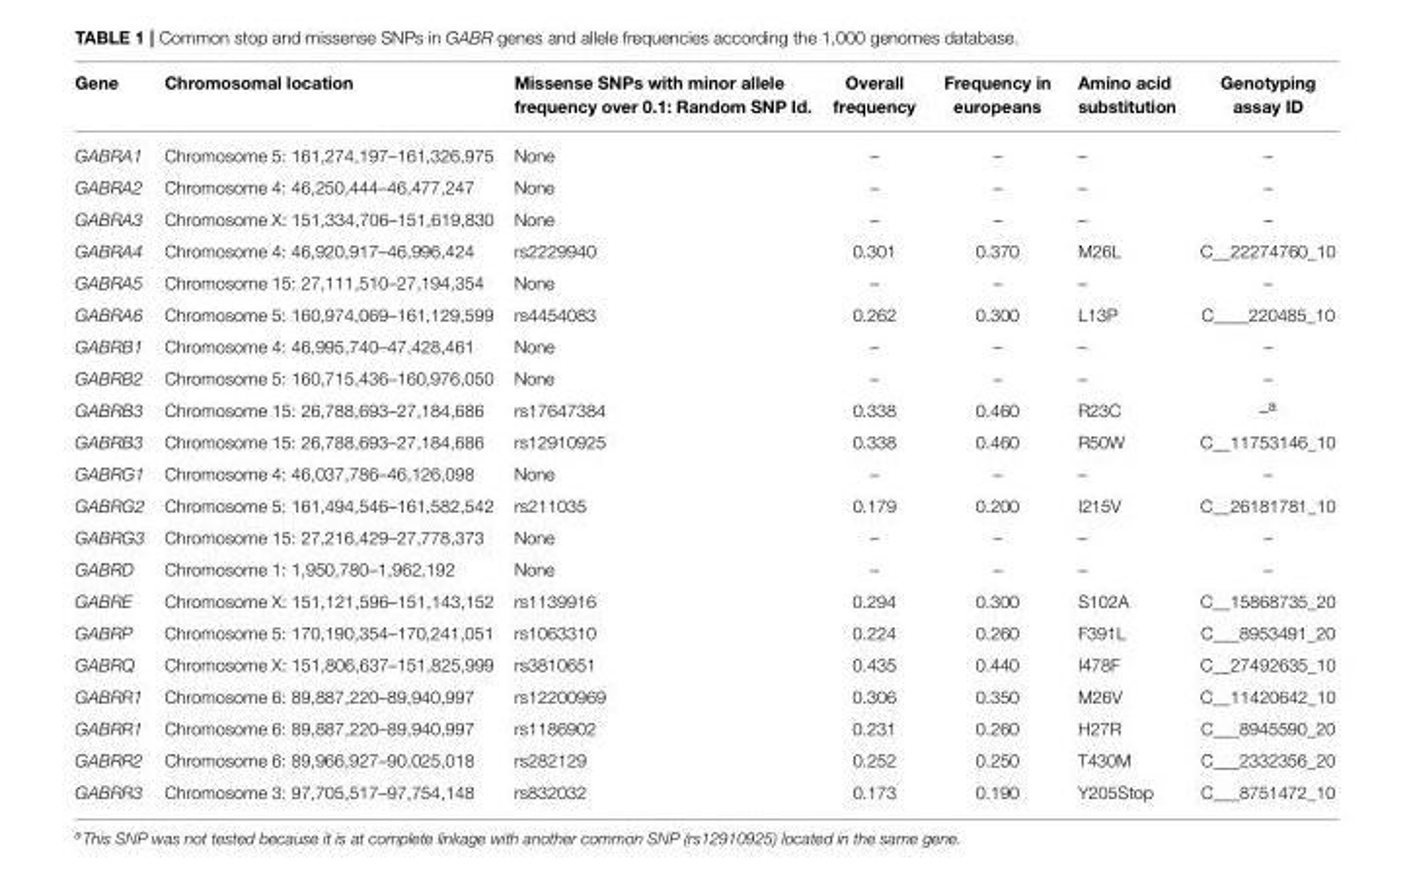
<table><thead><tr><td>Gene</td><td>Chromosomal location</td><td>Missense SNPs with minor allele frequency over 0.1: Random SNP Id.</td><td>Overall frequency</td><td>Frequency in europeans</td><td>Amino acid substitution</td><td>Genotyping assay ID</td></tr></thead><tbody><tr><td>GABRA1</td><td>Chromosome 5: 161,274,197–161,326,975</td><td>None</td><td>–</td><td>–</td><td>–</td><td>–</td></tr><tr><td>GABRA2</td><td>Chromosome 4: 46,250,444–46,477,247</td><td>None</td><td>–</td><td>–</td><td>–</td><td>–</td></tr><tr><td>GABRA3</td><td>Chromosome X: 151,334,706–151,619,830</td><td>None</td><td>–</td><td>–</td><td>–</td><td>–</td></tr><tr><td>GABRA4</td><td>Chromosome 4: 46,920,917–46,996,424</td><td>rs2229940</td><td>0.301</td><td>0.370</td><td>M26L</td><td>C__22274760_10</td></tr><tr><td>GABRA5</td><td>Chromosome 15: 27,111,510–27,194,354</td><td>None</td><td>–</td><td>–</td><td>–</td><td>–</td></tr><tr><td>GABRA6</td><td>Chromosome 5: 160,974,069–161,129,599</td><td>rs4454083</td><td>0.262</td><td>0.300</td><td>L13P</td><td>C____220485_10</td></tr><tr><td>GABRB1</td><td>Chromosome 4: 46,995,740–47,428,461</td><td>None</td><td>–</td><td>–</td><td>–</td><td>–</td></tr><tr><td>GABRB2</td><td>Chromosome 5: 160,715,436–160,976,050</td><td>None</td><td>–</td><td>–</td><td>–</td><td>–</td></tr><tr><td>GABRB3</td><td>Chromosome 15: 26,788,693–27,184,686</td><td>rs17647384</td><td>0.338</td><td>0.460</td><td>R23C</td><td>–<sup>a</sup></td></tr><tr><td>GABRB3</td><td>Chromosome 15: 26,788,693–27,184,686</td><td>rs12910925</td><td>0.338</td><td>0.460</td><td>R50W</td><td>C__11753146_10</td></tr><tr><td>GABRG1</td><td>Chromosome 4: 46,037,786–46,126,098</td><td>None</td><td>–</td><td>–</td><td>–</td><td>–</td></tr><tr><td>GABRG2</td><td>Chromosome 5: 161,494,546–161,582,542</td><td>rs211035</td><td>0.179</td><td>0.200</td><td>I215V</td><td>C__26181781_10</td></tr><tr><td>GABRG3</td><td>Chromosome 15: 27,216,429–27,778,373</td><td>None</td><td>–</td><td>–</td><td>–</td><td>–</td></tr><tr><td>GABRD</td><td>Chromosome 1: 1,950,780–1,962,192</td><td>None</td><td>–</td><td>–</td><td>–</td><td>–</td></tr><tr><td>GABRE</td><td>Chromosome X: 151,121,596–151,143,152</td><td>rs1139916</td><td>0.294</td><td>0.300</td><td>S102A</td><td>C__15868735_20</td></tr><tr><td>GABRP</td><td>Chromosome 5: 170,190,354–170,241,051</td><td>rs1063310</td><td>0.224</td><td>0.260</td><td>F391L</td><td>C___8953491_20</td></tr><tr><td>GABRQ</td><td>Chromosome X: 151,806,637–151,825,999</td><td>rs3810651</td><td>0.435</td><td>0.440</td><td>I478F</td><td>C__27492635_10</td></tr><tr><td>GABRR1</td><td>Chromosome 6: 89,887,220–89,940,997</td><td>rs12200969</td><td>0.306</td><td>0.350</td><td>M26V</td><td>C__11420642_10</td></tr><tr><td>GABRR1</td><td>Chromosome 6: 89,887,220–89,940,997</td><td>rs1186902</td><td>0.231</td><td>0.260</td><td>H27R</td><td>C___8945590_20</td></tr><tr><td>GABRR2</td><td>Chromosome 6: 89,966,927–90,025,018</td><td>rs282129</td><td>0.252</td><td>0.250</td><td>T430M</td><td>C___2332356_20</td></tr><tr><td>GABRR3</td><td>Chromosome 3: 97,705,517–97,754,148</td><td>rs832032</td><td>0.173</td><td>0.190</td><td>Y205Stop</td><td>C___8751472_10</td></tr></tbody></table>